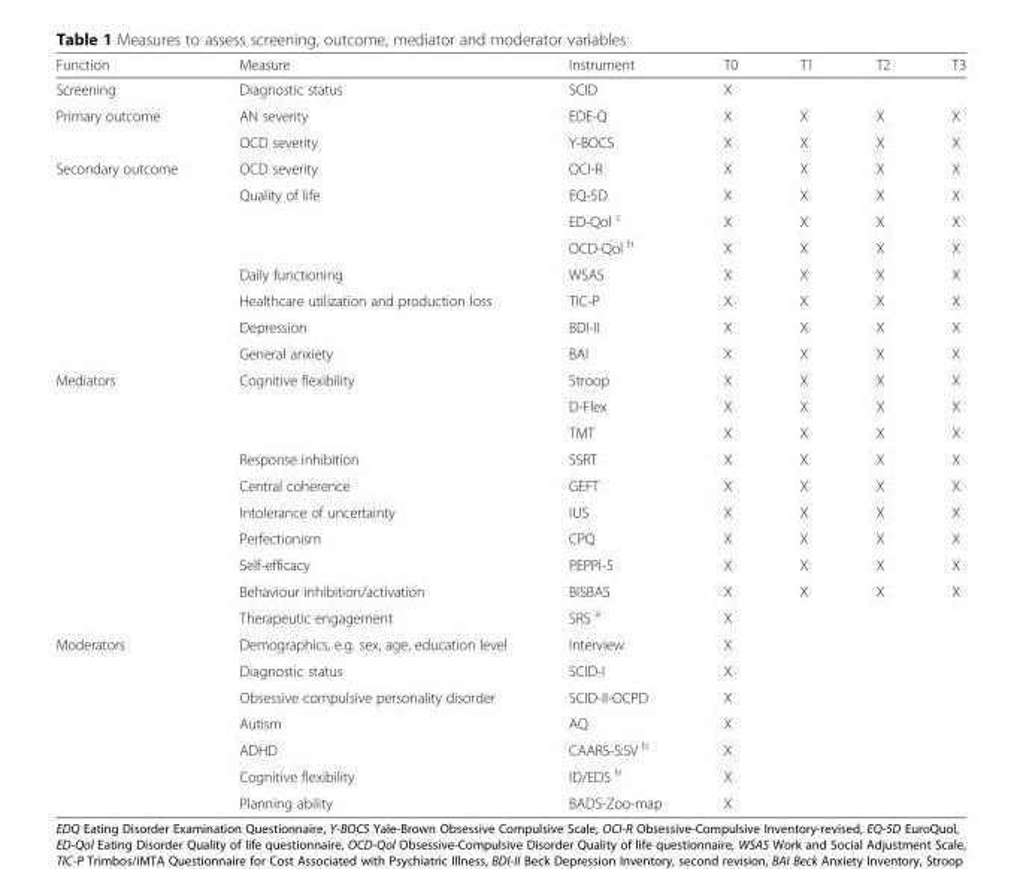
<table><thead><tr><td>Function</td><td>Measure</td><td>Instrument</td><td>T0</td><td>T1</td><td>T2</td><td>T3</td></tr></thead><tbody><tr><td>Screening</td><td>Diagnostic status</td><td>SCID</td><td>X</td><td></td><td></td><td></td></tr><tr><td rowspan="2">Primary outcome</td><td>AN severity</td><td>EDE-Q</td><td>X</td><td>X</td><td>X</td><td>X</td></tr><tr><td>OCD severity</td><td>Y-BOCS</td><td>X</td><td>X</td><td>X</td><td>X</td></tr><tr><td rowspan="8">Secondary outcome</td><td>OCD severity</td><td>OCI-R</td><td>X</td><td>X</td><td>X</td><td>X</td></tr><tr><td rowspan="3">Quality of life</td><td>EQ-5D</td><td>X</td><td>X</td><td>X</td><td>X</td></tr><tr><td>ED-Qol <sup>c</sup></td><td>X</td><td>X</td><td>X</td><td>X</td></tr><tr><td>OCD-Qol <sup>b</sup></td><td>X</td><td>X</td><td>X</td><td>X</td></tr><tr><td>Daily functioning</td><td>WSAS</td><td>X</td><td>X</td><td>X</td><td>X</td></tr><tr><td>Healthcare utilization and production loss</td><td>TIC-P</td><td>X</td><td>X</td><td>X</td><td>X</td></tr><tr><td>Depression</td><td>BDI-II</td><td>X</td><td>X</td><td>X</td><td>X</td></tr><tr><td>General anxiety</td><td>BAI</td><td>X</td><td>X</td><td>X</td><td>X</td></tr><tr><td rowspan="10">Mediators</td><td rowspan="3">Cognitive flexibility</td><td>Stroop</td><td>X</td><td>X</td><td>X</td><td>X</td></tr><tr><td>D-Flex</td><td>X</td><td>X</td><td>X</td><td>X</td></tr><tr><td>TMT</td><td>X</td><td>X</td><td>X</td><td>X</td></tr><tr><td>Response inhibition</td><td>SSRT</td><td>X</td><td>X</td><td>X</td><td>X</td></tr><tr><td>Central coherence</td><td>GEFT</td><td>X</td><td>X</td><td>X</td><td>X</td></tr><tr><td>Intolerance of uncertainty</td><td>IUS</td><td>X</td><td>X</td><td>X</td><td>X</td></tr><tr><td>Perfectionism</td><td>CPQ</td><td>X</td><td>X</td><td>X</td><td>X</td></tr><tr><td>Self-efficacy</td><td>PEPPI-5</td><td>X</td><td>X</td><td>X</td><td>X</td></tr><tr><td>Behaviour inhibition/activation</td><td>BISBAS</td><td>X</td><td>X</td><td>X</td><td>X</td></tr><tr><td>Therapeutic engagement</td><td>SRS <sup>a</sup></td><td>X</td><td></td><td></td><td></td></tr><tr><td rowspan="7">Moderators</td><td>Demographics, e.g. sex, age, education level</td><td>Interview</td><td>X</td><td></td><td></td><td></td></tr><tr><td>Diagnostic status</td><td>SCID-I</td><td>X</td><td></td><td></td><td></td></tr><tr><td>Obsessive compulsive personality disorder</td><td>SCID-II-OCPD</td><td>X</td><td></td><td></td><td></td></tr><tr><td>Autism</td><td>AQ</td><td>X</td><td></td><td></td><td></td></tr><tr><td>ADHD</td><td>CAARS-S:SV <sup>b</sup></td><td>X</td><td></td><td></td><td></td></tr><tr><td>Cognitive flexibility</td><td>ID/EDS <sup>b</sup></td><td>X</td><td></td><td></td><td></td></tr><tr><td>Planning ability</td><td>BADS-Zoo-map</td><td>X</td><td></td><td></td><td></td></tr></tbody></table>